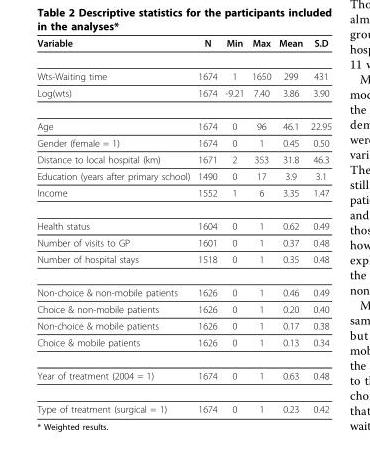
<table><thead><tr><td>Variable</td><td>N</td><td>Min</td><td>Max</td><td>Mean</td><td>S.D</td></tr></thead><tbody><tr><td>Wts-Waiting time</td><td>1674</td><td>1</td><td>1650</td><td>299</td><td>431</td></tr><tr><td>Log(wts)</td><td>1674</td><td>-9.21</td><td>7.40</td><td>3.86</td><td>3.90</td></tr><tr><td>Age</td><td>1674</td><td>0</td><td>96</td><td>46.1</td><td>22.95</td></tr><tr><td>Gender (female = 1)</td><td>1674</td><td>0</td><td>1</td><td>0.45</td><td>0.50</td></tr><tr><td>Distance to local hospital (km)</td><td>1671</td><td>2</td><td>353</td><td>31.8</td><td>46.3</td></tr><tr><td>Education (years after primary school)</td><td>1490</td><td>0</td><td>17</td><td>3.9</td><td>3.1</td></tr><tr><td>Income</td><td>1552</td><td>1</td><td>6</td><td>3.35</td><td>1.47</td></tr><tr><td>Health status</td><td>1604</td><td>0</td><td>1</td><td>0.62</td><td>0.49</td></tr><tr><td>Number of visits to GP</td><td>1601</td><td>0</td><td>1</td><td>0.37</td><td>0.48</td></tr><tr><td>Number of hospital stays</td><td>1518</td><td>0</td><td>1</td><td>0.35</td><td>0.48</td></tr><tr><td>Non-choice &amp; non-mobile patients</td><td>1626</td><td>0</td><td>1</td><td>0.46</td><td>0.49</td></tr><tr><td>Choice &amp; non-mobile patients</td><td>1626</td><td>0</td><td>1</td><td>0.20</td><td>0.40</td></tr><tr><td>Non-choice &amp; mobile patients</td><td>1626</td><td>0</td><td>1</td><td>0.17</td><td>0.38</td></tr><tr><td>Choice &amp; mobile patients</td><td>1626</td><td>0</td><td>1</td><td>0.13</td><td>0.34</td></tr><tr><td>Year of treatment (2004 = 1)</td><td>1674</td><td>0</td><td>1</td><td>0.63</td><td>0.48</td></tr><tr><td>Type of treatment (surgical = 1)</td><td>1674</td><td>0</td><td>1</td><td>0.23</td><td>0.42</td></tr></tbody></table>